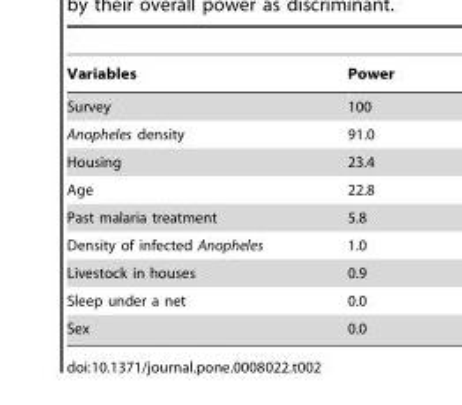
<table><thead><tr><td>Variables</td><td>Power</td></tr></thead><tbody><tr><td>Survey</td><td>100</td></tr><tr><td>Anopheles density</td><td>91.0</td></tr><tr><td>Housing</td><td>23.4</td></tr><tr><td>Age</td><td>22.8</td></tr><tr><td>Past malaria treatment</td><td>5.8</td></tr><tr><td>Density of infected Anopheles</td><td>1.0</td></tr><tr><td>Livestock in houses</td><td>0.9</td></tr><tr><td>Sleep under a net</td><td>0.0</td></tr><tr><td>Sex</td><td>0.0</td></tr></tbody></table>